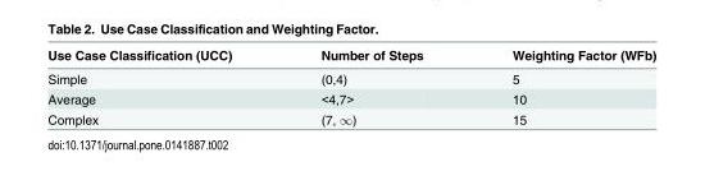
<table><thead><tr><td>Use Case Classification (UCC)</td><td>Number of Steps</td><td>Weighting Factor (WFb)</td></tr></thead><tbody><tr><td>Simple</td><td>(0,4)</td><td>5</td></tr><tr><td>Average</td><td>&lt;4,7&gt;</td><td>10</td></tr><tr><td>Complex</td><td>(7, ∞)</td><td>15</td></tr></tbody></table>